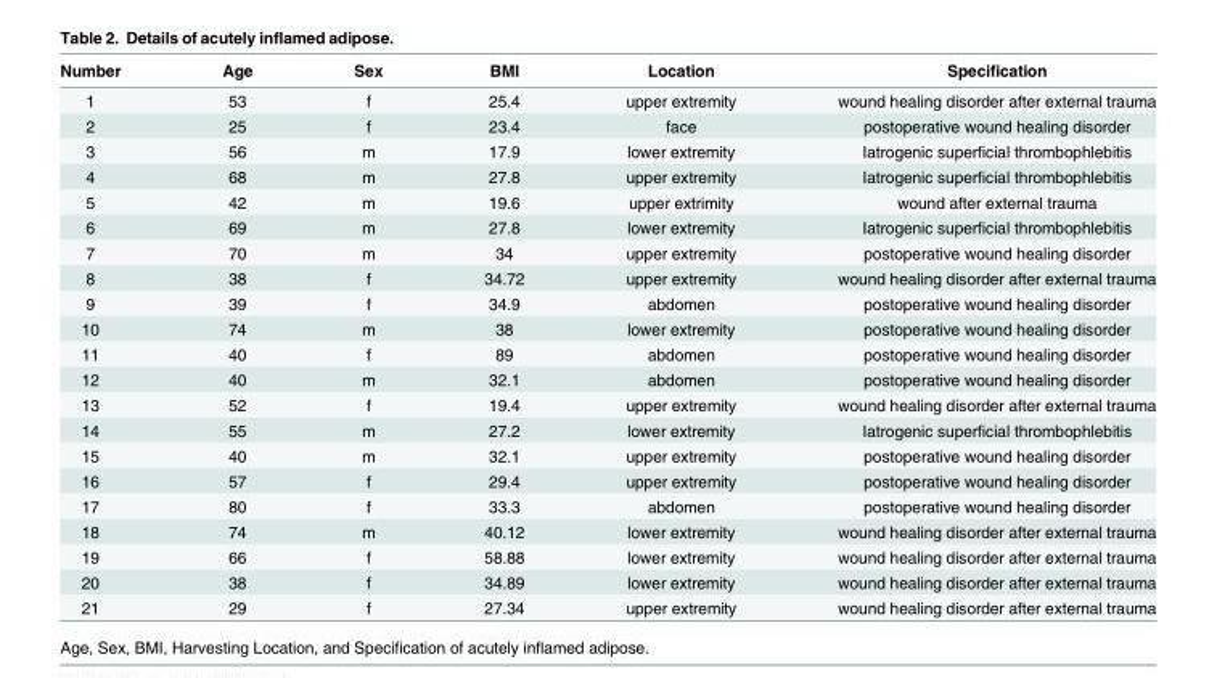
<table><thead><tr><td>Number</td><td>Age</td><td>Sex</td><td>BMI</td><td>Location</td><td>Specification</td></tr></thead><tbody><tr><td>1</td><td>53</td><td>f</td><td>25.4</td><td>upper extremity</td><td>wound healing disorder after external trauma</td></tr><tr><td>2</td><td>25</td><td>f</td><td>23.4</td><td>face</td><td>postoperative wound healing disorder</td></tr><tr><td>3</td><td>56</td><td>m</td><td>17.9</td><td>lower extremity</td><td>Iatrogenic superficial thrombophlebitis</td></tr><tr><td>4</td><td>68</td><td>m</td><td>27.8</td><td>upper extremity</td><td>Iatrogenic superficial thrombophlebitis</td></tr><tr><td>5</td><td>42</td><td>m</td><td>19.6</td><td>upper extrimity</td><td>wound after external trauma</td></tr><tr><td>6</td><td>69</td><td>m</td><td>27.8</td><td>lower extremity</td><td>Iatrogenic superficial thrombophlebitis</td></tr><tr><td>7</td><td>70</td><td>m</td><td>34</td><td>upper extremity</td><td>postoperative wound healing disorder</td></tr><tr><td>8</td><td>38</td><td>f</td><td>34.72</td><td>upper extremity</td><td>wound healing disorder after external trauma</td></tr><tr><td>9</td><td>39</td><td>f</td><td>34.9</td><td>abdomen</td><td>postoperative wound healing disorder</td></tr><tr><td>10</td><td>74</td><td>m</td><td>38</td><td>lower extremity</td><td>postoperative wound healing disorder</td></tr><tr><td>11</td><td>40</td><td>f</td><td>89</td><td>abdomen</td><td>postoperative wound healing disorder</td></tr><tr><td>12</td><td>40</td><td>m</td><td>32.1</td><td>abdomen</td><td>postoperative wound healing disorder</td></tr><tr><td>13</td><td>52</td><td>f</td><td>19.4</td><td>upper extremity</td><td>wound healing disorder after external trauma</td></tr><tr><td>14</td><td>55</td><td>m</td><td>27.2</td><td>lower extremity</td><td>Iatrogenic superficial thrombophlebitis</td></tr><tr><td>15</td><td>40</td><td>m</td><td>32.1</td><td>upper extremity</td><td>postoperative wound healing disorder</td></tr><tr><td>16</td><td>57</td><td>f</td><td>29.4</td><td>upper extremity</td><td>postoperative wound healing disorder</td></tr><tr><td>17</td><td>80</td><td>f</td><td>33.3</td><td>abdomen</td><td>postoperative wound healing disorder</td></tr><tr><td>18</td><td>74</td><td>m</td><td>40.12</td><td>lower extremity</td><td>wound healing disorder after external trauma</td></tr><tr><td>19</td><td>66</td><td>f</td><td>58.88</td><td>lower extremity</td><td>wound healing disorder after external trauma</td></tr><tr><td>20</td><td>38</td><td>f</td><td>34.89</td><td>lower extremity</td><td>wound healing disorder after external trauma</td></tr><tr><td>21</td><td>29</td><td>f</td><td>27.34</td><td>upper extremity</td><td>wound healing disorder after external trauma</td></tr></tbody></table>